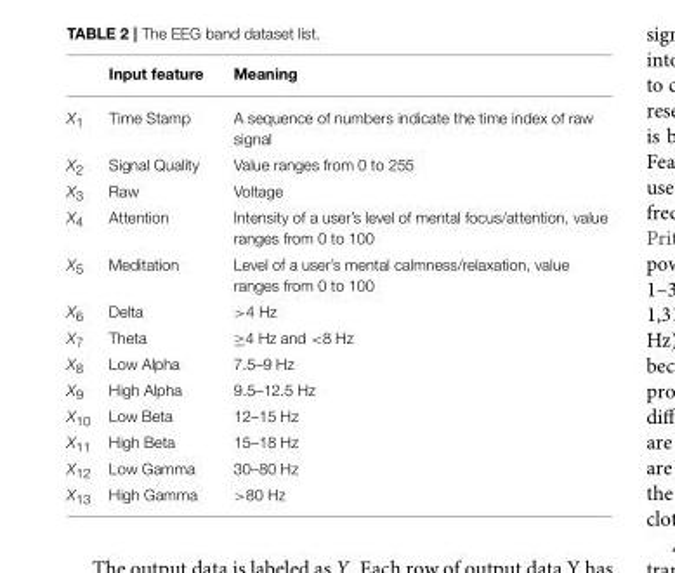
<table><thead><tr><td></td><td>Input feature</td><td>Meaning</td></tr></thead><tbody><tr><td>X<sub>1</sub></td><td>Time Stamp</td><td>A sequence of numbers indicate the time index of raw signal</td></tr><tr><td>X<sub>2</sub></td><td>Signal Quality</td><td>Value ranges from 0 to 255</td></tr><tr><td>X<sub>3</sub></td><td>Raw</td><td>Voltage</td></tr><tr><td>X<sub>4</sub></td><td>Attention</td><td>Intensity of a user’s level of mental focus/attention, value ranges from 0 to 100</td></tr><tr><td>X<sub>5</sub></td><td>Meditation</td><td>Level of a user’s mental calmness/relaxation, value ranges from 0 to 100</td></tr><tr><td>X<sub>6</sub></td><td>Delta</td><td>&gt;4 Hz</td></tr><tr><td>X<sub>7</sub></td><td>Theta</td><td>≥4 Hz and &lt;8 Hz</td></tr><tr><td>X<sub>8</sub></td><td>Low Alpha</td><td>7.5–9 Hz</td></tr><tr><td>X<sub>9</sub></td><td>High Alpha</td><td>9.5–12.5 Hz</td></tr><tr><td>X<sub>10</sub></td><td>Low Beta</td><td>12–15 Hz</td></tr><tr><td>X<sub>11</sub></td><td>High Beta</td><td>15–18 Hz</td></tr><tr><td>X<sub>12</sub></td><td>Low Gamma</td><td>30–80 Hz</td></tr><tr><td>X<sub>13</sub></td><td>High Gamma</td><td>&gt;80 Hz</td></tr></tbody></table>